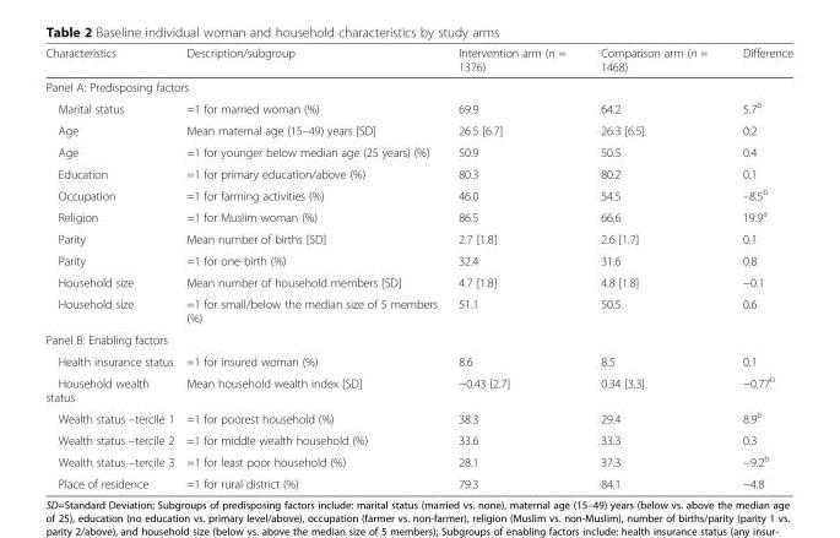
<table><thead><tr><td>Characteristics</td><td>Description/subgroup</td><td>Intervention arm (n = 1376)</td><td>Comparison arm (n = 1468)</td><td>Difference</td></tr></thead><tbody><tr><td colspan="5">Panel A: Predisposing factors</td></tr><tr><td>Marital status</td><td>=1 for married woman (%)</td><td>69.9</td><td>64.2</td><td>5.7<sup>b</sup></td></tr><tr><td>Age</td><td>Mean maternal age (15–49) years [SD]</td><td>26.5 [6.7]</td><td>26.3 [6.5]</td><td>0.2</td></tr><tr><td>Age</td><td>=1 for younger below median age (25 years) (%)</td><td>50.9</td><td>50.5</td><td>0.4</td></tr><tr><td>Education</td><td>=1 for primary education/above (%)</td><td>80.3</td><td>80.2</td><td>0.1</td></tr><tr><td>Occupation</td><td>=1 for farming activities (%)</td><td>46.0</td><td>54.5</td><td>–8.5<sup>b</sup></td></tr><tr><td>Religion</td><td>=1 for Muslim woman (%)</td><td>86.5</td><td>66.6</td><td>19.9<sup>a</sup></td></tr><tr><td>Parity</td><td>Mean number of births [SD]</td><td>2.7 [1.8]</td><td>2.6 [1.7]</td><td>0.1</td></tr><tr><td>Parity</td><td>=1 for one birth (%)</td><td>32.4</td><td>31.6</td><td>0.8</td></tr><tr><td>Household size</td><td>Mean number of household members [SD]</td><td>4.7 [1.8]</td><td>4.8 [1.8]</td><td>−0.1</td></tr><tr><td>Household size</td><td>=1 for small/below the median size of 5 members (%)</td><td>51.1</td><td>50.5</td><td>0.6</td></tr><tr><td colspan="5">Panel B: Enabling factors</td></tr><tr><td>Health insurance status</td><td>=1 for insured woman (%)</td><td>8.6</td><td>8.5</td><td>0.1</td></tr><tr><td>Household wealth status</td><td>Mean household wealth index [SD]</td><td>−0.43 [2.7]</td><td>0.34 [3.3]</td><td>−0.77<sup>b</sup></td></tr><tr><td>Wealth status –tercile 1</td><td>=1 for poorest household (%)</td><td>38.3</td><td>29.4</td><td>8.9<sup>b</sup></td></tr><tr><td>Wealth status –tercile 2</td><td>=1 for middle wealth household (%)</td><td>33.6</td><td>33.3</td><td>0.3</td></tr><tr><td>Wealth status –tercile 3</td><td>=1 for least poor household (%)</td><td>28.1</td><td>37.3</td><td>−9.2<sup>b</sup></td></tr><tr><td>Place of residence</td><td>=1 for rural district (%)</td><td>79.3</td><td>84.1</td><td>−4.8</td></tr></tbody></table>